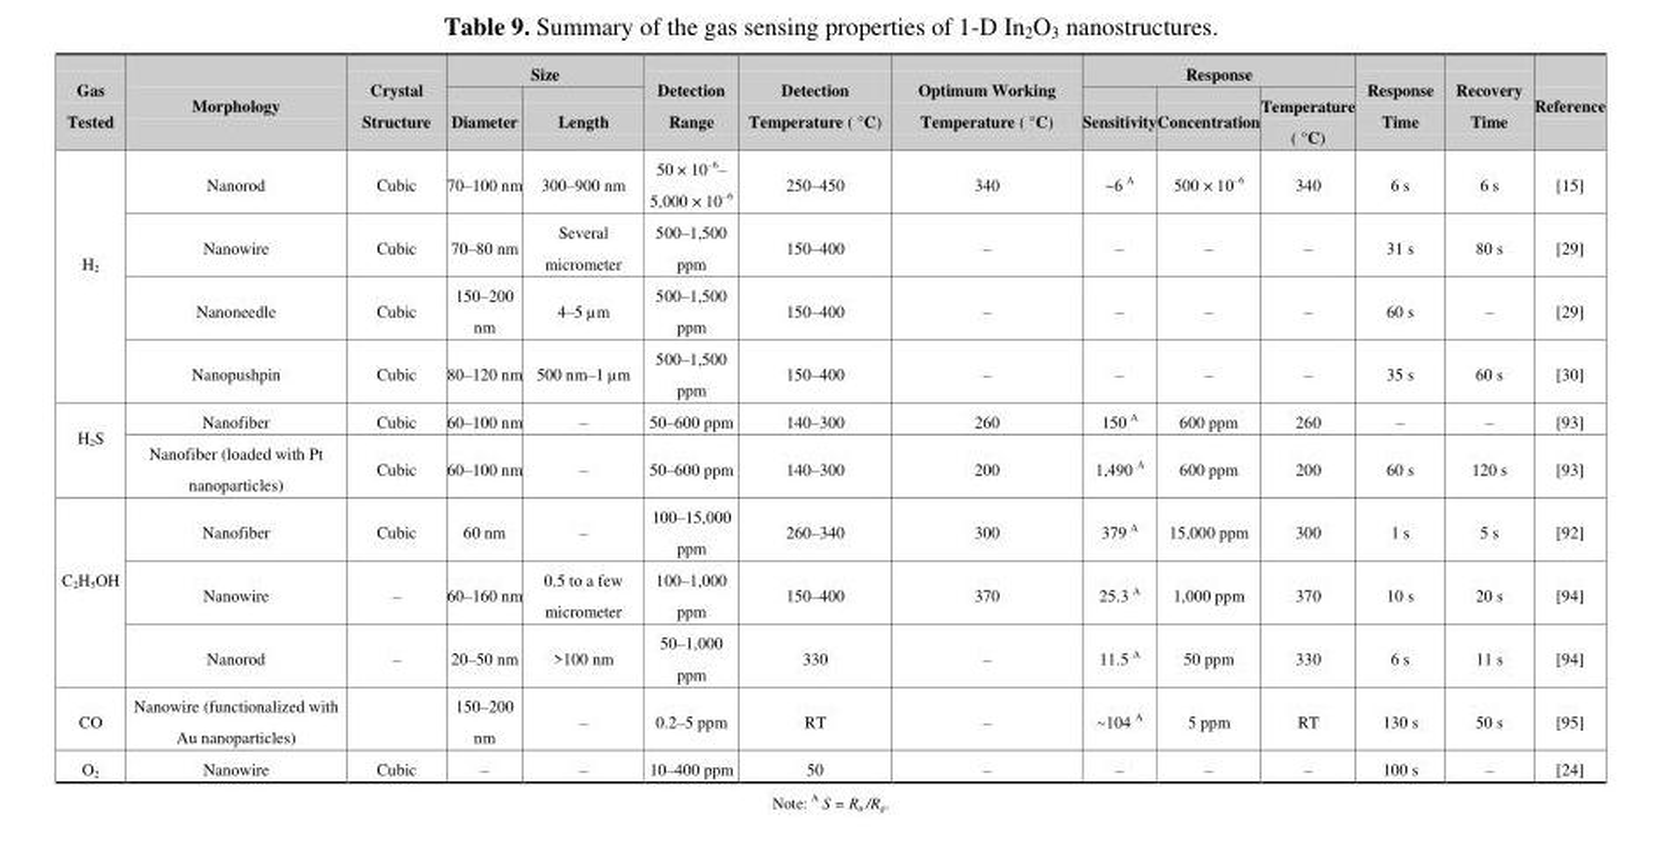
<table><thead><tr><td rowspan="2">Gas Tested</td><td rowspan="2">Morphology</td><td rowspan="2">Crystal Structure</td><td colspan="2">Size</td><td rowspan="2">Detection Range</td><td rowspan="2">Detection Temperature ( °C)</td><td rowspan="2">Optimum Working Temperature ( °C)</td><td colspan="3">Response</td><td rowspan="2">Response Time</td><td rowspan="2">Recovery Time</td><td rowspan="2">Reference</td></tr><tr><td>Diameter</td><td>Length</td><td>Sensitivity</td><td>Concentration</td><td>Temperature ( °C)</td></tr></thead><tbody><tr><td rowspan="4">H<sub>2</sub></td><td>Nanorod</td><td>Cubic</td><td>70–100 nm</td><td>300–900 nm</td><td>50 × 10<sup>–6</sup>– 5,000 × 10<sup>–6</sup></td><td>250–450</td><td>340</td><td>~6 A</td><td>500 × 10<sup>–6</sup></td><td>340</td><td>6 s</td><td>6 s</td><td>[15]</td></tr><tr><td>Nanowire</td><td>Cubic</td><td>70–80 nm</td><td>Several micrometer</td><td>500–1,500 ppm</td><td>150–400</td><td>–</td><td>–</td><td>–</td><td>–</td><td>31 s</td><td>80 s</td><td>[29]</td></tr><tr><td>Nanoneedle</td><td>Cubic</td><td>150–200 nm</td><td>4–5 µm</td><td>500–1,500 ppm</td><td>150–400</td><td>–</td><td>–</td><td>–</td><td>–</td><td>60 s</td><td>–</td><td>[29]</td></tr><tr><td>Nanopushpin</td><td>Cubic</td><td>80–120 nm</td><td>500 nm–1 µm</td><td>500–1,500 ppm</td><td>150–400</td><td>–</td><td>–</td><td>–</td><td>–</td><td>35 s</td><td>60 s</td><td>[30]</td></tr><tr><td rowspan="2">H<sub>2</sub>S</td><td>Nanofiber</td><td>Cubic</td><td>60–100 nm</td><td>–</td><td>50–600 ppm</td><td>140–300</td><td>260</td><td>150 <sup>A</sup></td><td>600 ppm</td><td>260</td><td>–</td><td>–</td><td>[93]</td></tr><tr><td>Nanofiber (loaded with Pt nanoparticles)</td><td>Cubic</td><td>60–100 nm</td><td>–</td><td>50–600 ppm</td><td>140–300</td><td>200</td><td>1,490 <sup>A</sup></td><td>600 ppm</td><td>200</td><td>60 s</td><td>120 s</td><td>[93]</td></tr><tr><td rowspan="3">C<sub>2</sub>H<sub>5</sub>OH</td><td>Nanofiber</td><td>Cubic</td><td>60 nm</td><td>–</td><td>100–15,000 ppm</td><td>260–340</td><td>300</td><td>379 <sup>A</sup></td><td>15,000 ppm</td><td>300</td><td>1 s</td><td>5 s</td><td>[92]</td></tr><tr><td>Nanowire</td><td>–</td><td>60–160 nm</td><td>0.5 to a few micrometer</td><td>100–1,000 ppm</td><td>150–400</td><td>370</td><td>25.3 <sup>A</sup></td><td>1,000 ppm</td><td>370</td><td>10 s</td><td>20 s</td><td>[94]</td></tr><tr><td>Nanorod</td><td>–</td><td>20–50 nm</td><td>&gt;100 nm</td><td>50–1,000 ppm</td><td>330</td><td>–</td><td>11.5 <sup>A</sup></td><td>50 ppm</td><td>330</td><td>6 s</td><td>11 s</td><td>[94]</td></tr><tr><td>CO</td><td>Nanowire (functionalized with Au nanoparticles)</td><td></td><td>150–200 nm</td><td>–</td><td>0.2–5 ppm</td><td>RT</td><td>–</td><td>~104 A</td><td>5 ppm</td><td>RT</td><td>130 s</td><td>50 s</td><td>[95]</td></tr><tr><td>O<sub>2</sub></td><td>Nanowire</td><td>Cubic</td><td>–</td><td>–</td><td>10–400 ppm</td><td>50</td><td>–</td><td>–</td><td>–</td><td>–</td><td>100 s</td><td>–</td><td>[24]</td></tr></tbody></table>